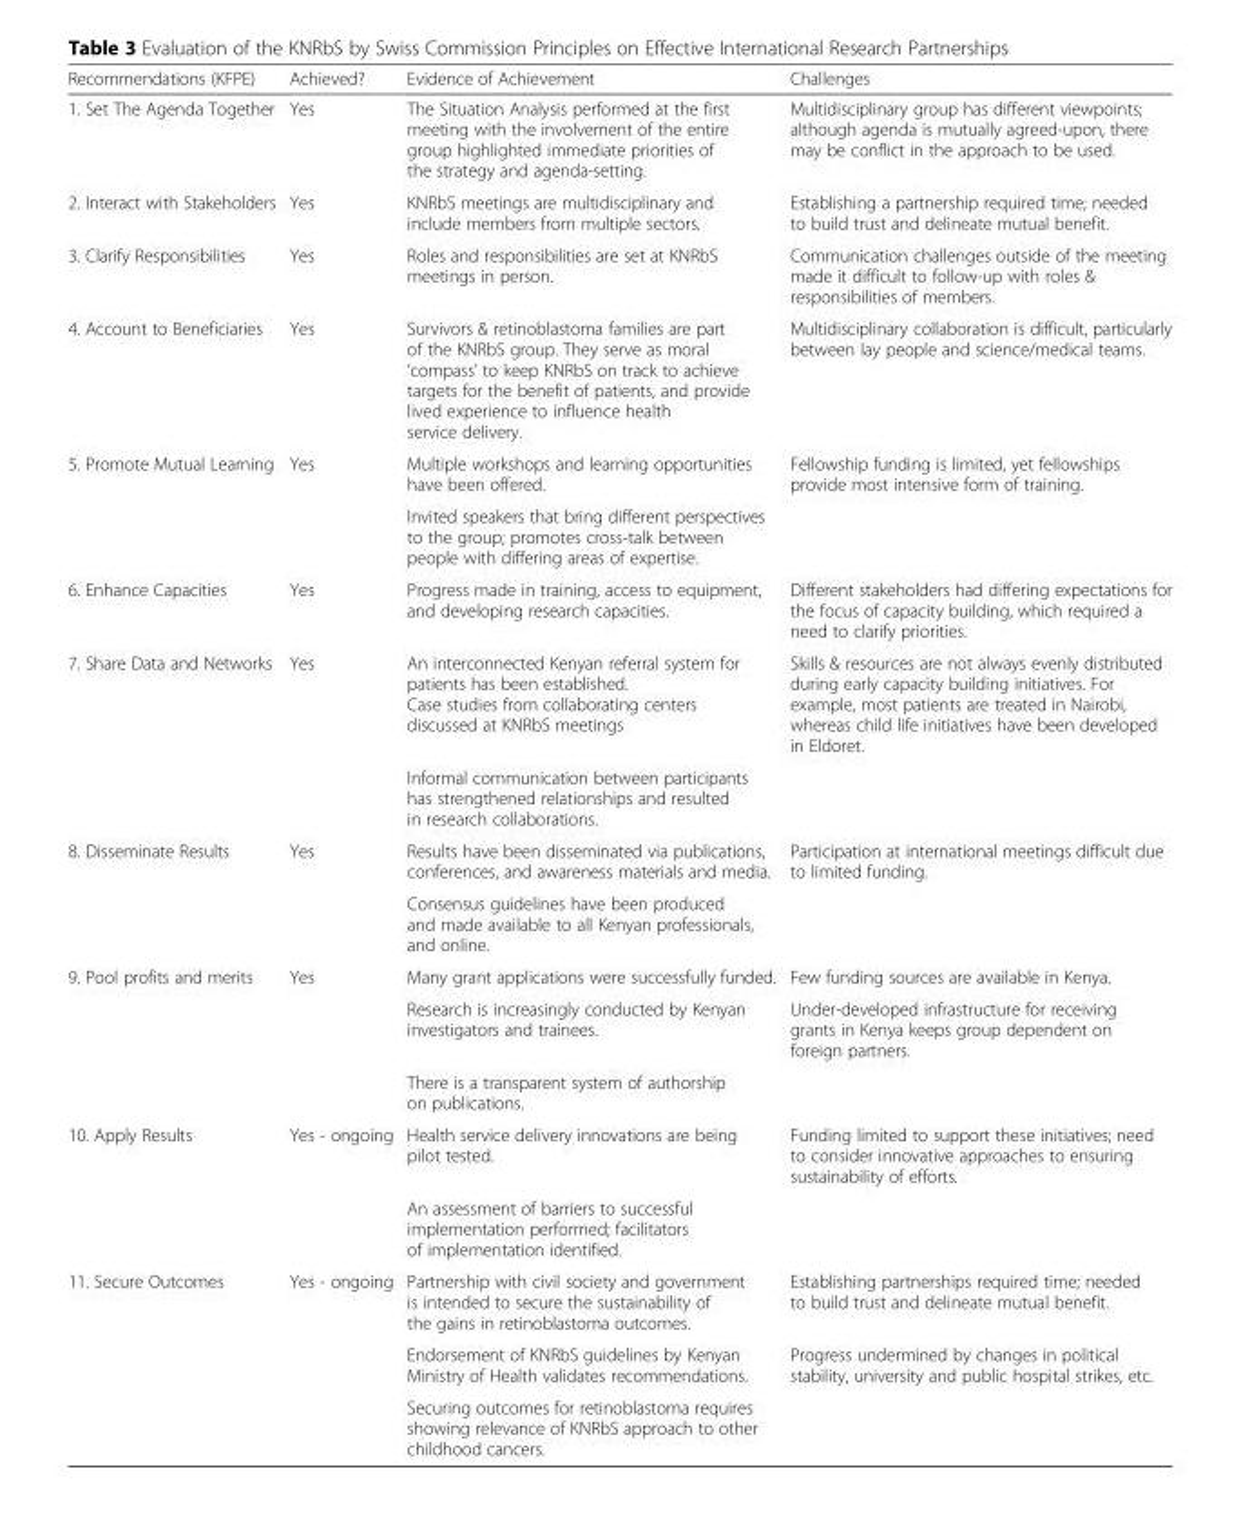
<table><thead><tr><td>Recommendations (KFPE)</td><td>Achieved?</td><td>Evidence of Achievement</td><td>Challenges</td></tr></thead><tbody><tr><td>1. Set The Agenda Together</td><td>Yes</td><td>The Situation Analysis performed at the first meeting with the involvement of the entire group highlighted immediate priorities of the strategy and agenda-setting.</td><td>Multidisciplinary group has different viewpoints; although agenda is mutually agreed-upon, there may be conflict in the approach to be used.</td></tr><tr><td>2. Interact with Stakeholders</td><td>Yes</td><td>KNRbS meetings are multidisciplinary and include members from multiple sectors.</td><td>Establishing a partnership required time; needed to build trust and delineate mutual benefit.</td></tr><tr><td>3. Clarify Responsibilities</td><td>Yes</td><td>Roles and responsibilities are set at KNRbS meetings in person.</td><td>Communication challenges outside of the meeting made it difficult to follow-up with roles &amp; responsibilities of members.</td></tr><tr><td>4. Account to Beneficiaries</td><td>Yes</td><td>Survivors &amp; retinoblastoma families are part of the KNRbS group. They serve as moral ‘compass’ to keep KNRbS on track to achieve targets for the benefit of patients, and provide lived experience to influence health service delivery.</td><td>Multidisciplinary collaboration is difficult, particularly between lay people and science/medical teams.</td></tr><tr><td rowspan="2">5. Promote Mutual Learning</td><td rowspan="2">Yes</td><td>Multiple workshops and learning opportunities have been offered.</td><td>Fellowship funding is limited, yet fellowships provide most intensive form of training.</td></tr><tr><td>Invited speakers that bring different perspectives to the group; promotes cross-talk between people with differing areas of expertise.</td><td></td></tr><tr><td>6. Enhance Capacities</td><td>Yes</td><td>Progress made in training, access to equipment, and developing research capacities.</td><td>Different stakeholders had differing expectations for the focus of capacity building, which required a need to clarify priorities.</td></tr><tr><td rowspan="2">7. Share Data and Networks</td><td rowspan="2">Yes</td><td>An interconnected Kenyan referral system for patients has been established. Case studies from collaborating centers discussed at KNRbS meetings</td><td>Skills &amp; resources are not always evenly distributed during early capacity building initiatives. For example, most patients are treated in Nairobi, whereas child life initiatives have been developed in Eldoret.</td></tr><tr><td>Informal communication between participants has strengthened relationships and resulted in research collaborations.</td><td></td></tr><tr><td rowspan="2">8. Disseminate Results</td><td rowspan="2">Yes</td><td>Results have been disseminated via publications, conferences, and awareness materials and media.</td><td>Participation at international meetings difficult due to limited funding.</td></tr><tr><td>Consensus guidelines have been produced and made available to all Kenyan professionals, and online.</td><td></td></tr><tr><td rowspan="3">9. Pool profits and merits</td><td rowspan="3">Yes</td><td>Many grant applications were successfully funded.</td><td>Few funding sources are available in Kenya.</td></tr><tr><td>Research is increasingly conducted by Kenyan investigators and trainees.</td><td>Under-developed infrastructure for receiving grants in Kenya keeps group dependent on foreign partners.</td></tr><tr><td>There is a transparent system of authorship on publications.</td><td></td></tr><tr><td rowspan="2">10. Apply Results</td><td rowspan="2">Yes - ongoing</td><td>Health service delivery innovations are being pilot tested.</td><td>Funding limited to support these initiatives; need to consider innovative approaches to ensuring sustainability of efforts.</td></tr><tr><td>An assessment of barriers to successful implementation performed; facilitators of implementation identified.</td><td></td></tr><tr><td rowspan="3">11. Secure Outcomes</td><td rowspan="3">Yes - ongoing</td><td>Partnership with civil society and government is intended to secure the sustainability of the gains in retinoblastoma outcomes.</td><td>Establishing partnerships required time; needed to build trust and delineate mutual benefit.</td></tr><tr><td>Endorsement of KNRbS guidelines by Kenyan Ministry of Health validates recommendations.</td><td>Progress undermined by changes in political stability, university and public hospital strikes, etc.</td></tr><tr><td>Securing outcomes for retinoblastoma requires showing relevance of KNRbS approach to other childhood cancers.</td><td></td></tr></tbody></table>